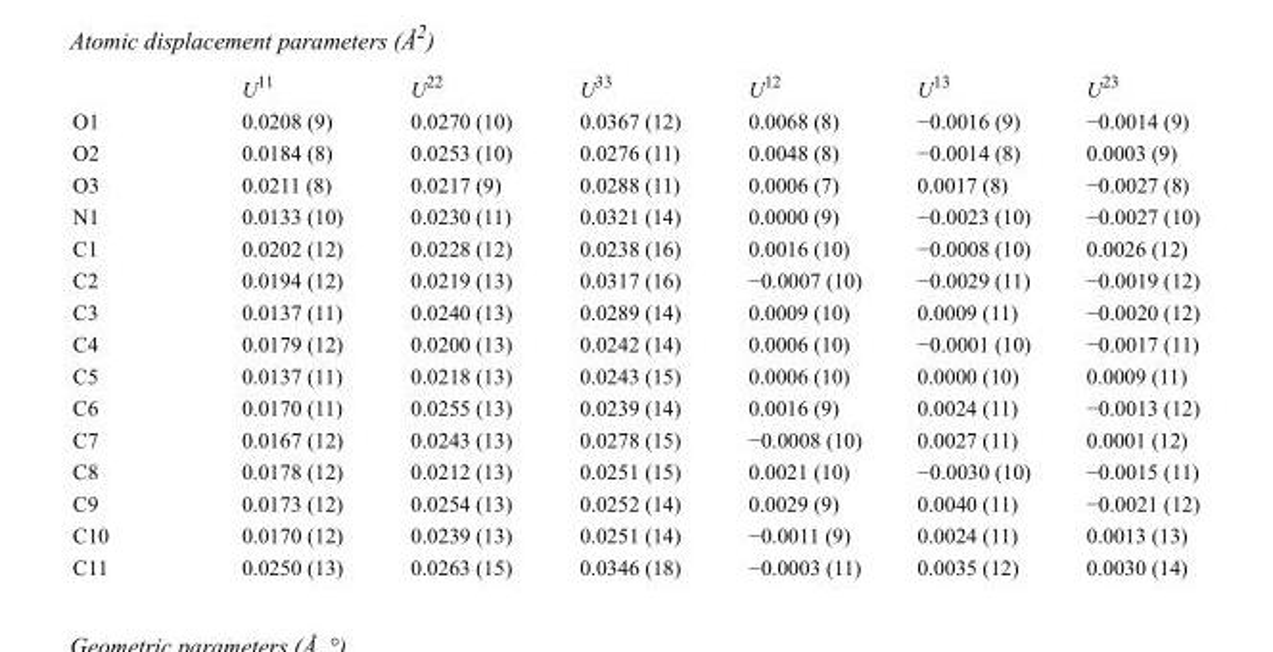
<table><thead><tr><td></td><td>U<sup>11</sup></td><td>U<sup>22</sup></td><td>U<sup>33</sup></td><td>U<sup>12</sup></td><td>U<sup>13</sup></td><td>U<sup>23</sup></td></tr></thead><tbody><tr><td>O1</td><td>0.0208 (9)</td><td>0.0270 (10)</td><td>0.0367 (12)</td><td>0.0068 (8)</td><td>−0.0016 (9)</td><td>−0.0014 (9)</td></tr><tr><td>O2</td><td>0.0184 (8)</td><td>0.0253 (10)</td><td>0.0276 (11)</td><td>0.0048 (8)</td><td>−0.0014 (8)</td><td>0.0003 (9)</td></tr><tr><td>O3</td><td>0.0211 (8)</td><td>0.0217 (9)</td><td>0.0288 (11)</td><td>0.0006 (7)</td><td>0.0017 (8)</td><td>−0.0027 (8)</td></tr><tr><td>N1</td><td>0.0133 (10)</td><td>0.0230 (11)</td><td>0.0321 (14)</td><td>0.0000 (9)</td><td>−0.0023 (10)</td><td>−0.0027 (10)</td></tr><tr><td>C1</td><td>0.0202 (12)</td><td>0.0228 (12)</td><td>0.0238 (16)</td><td>0.0016 (10)</td><td>−0.0008 (10)</td><td>0.0026 (12)</td></tr><tr><td>C2</td><td>0.0194 (12)</td><td>0.0219 (13)</td><td>0.0317 (16)</td><td>−0.0007 (10)</td><td>−0.0029 (11)</td><td>−0.0019 (12)</td></tr><tr><td>C3</td><td>0.0137 (11)</td><td>0.0240 (13)</td><td>0.0289 (14)</td><td>0.0009 (10)</td><td>0.0009 (11)</td><td>−0.0020 (12)</td></tr><tr><td>C4</td><td>0.0179 (12)</td><td>0.0200 (13)</td><td>0.0242 (14)</td><td>0.0006 (10)</td><td>−0.0001 (10)</td><td>−0.0017 (11)</td></tr><tr><td>C5</td><td>0.0137 (11)</td><td>0.0218 (13)</td><td>0.0243 (15)</td><td>0.0006 (10)</td><td>0.0000 (10)</td><td>0.0009 (11)</td></tr><tr><td>C6</td><td>0.0170 (11)</td><td>0.0255 (13)</td><td>0.0239 (14)</td><td>0.0016 (9)</td><td>0.0024 (11)</td><td>−0.0013 (12)</td></tr><tr><td>C7</td><td>0.0167 (12)</td><td>0.0243 (13)</td><td>0.0278 (15)</td><td>−0.0008 (10)</td><td>0.0027 (11)</td><td>0.0001 (12)</td></tr><tr><td>C8</td><td>0.0178 (12)</td><td>0.0212 (13)</td><td>0.0251 (15)</td><td>0.0021 (10)</td><td>−0.0030 (10)</td><td>−0.0015 (11)</td></tr><tr><td>C9</td><td>0.0173 (12)</td><td>0.0254 (13)</td><td>0.0252 (14)</td><td>0.0029 (9)</td><td>0.0040 (11)</td><td>−0.0021 (12)</td></tr><tr><td>C10</td><td>0.0170 (12)</td><td>0.0239 (13)</td><td>0.0251 (14)</td><td>−0.0011 (9)</td><td>0.0024 (11)</td><td>0.0013 (13)</td></tr><tr><td>C11</td><td>0.0250 (13)</td><td>0.0263 (15)</td><td>0.0346 (18)</td><td>−0.0003 (11)</td><td>0.0035 (12)</td><td>0.0030 (14)</td></tr></tbody></table>